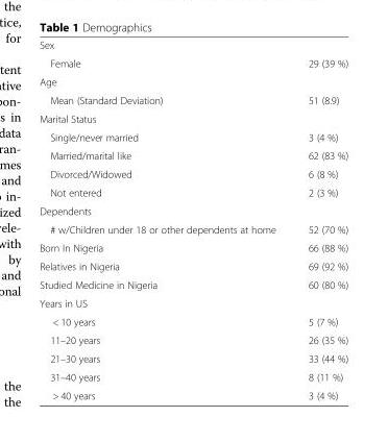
<table><tbody><tr><td colspan="2">Sex</td></tr><tr><td>Female</td><td>29 (39 %)</td></tr><tr><td colspan="2">Age</td></tr><tr><td>Mean (Standard Deviation)</td><td>51 (8.9)</td></tr><tr><td colspan="2">Marital Status</td></tr><tr><td>Single/never married</td><td>3 (4 %)</td></tr><tr><td>Married/marital like</td><td>62 (83 %)</td></tr><tr><td>Divorced/Widowed</td><td>6 (8 %)</td></tr><tr><td>Not entered</td><td>2 (3 %)</td></tr><tr><td colspan="2">Dependents</td></tr><tr><td># w/Children under 18 or other dependents at home</td><td>52 (70 %)</td></tr><tr><td>Born In Nigeria</td><td>66 (88 %)</td></tr><tr><td>Relatives in Nigeria</td><td>69 (92 %)</td></tr><tr><td>Studied Medicine in Nigeria</td><td>60 (80 %)</td></tr><tr><td colspan="2">Years in US</td></tr><tr><td>&lt; 10 years</td><td>5 (7 %)</td></tr><tr><td>11–20 years</td><td>26 (35 %)</td></tr><tr><td>21–30 years</td><td>33 (44 %)</td></tr><tr><td>31–40 years</td><td>8 (11 %)</td></tr><tr><td>&gt; 40 years</td><td>3 (4 %)</td></tr></tbody></table>